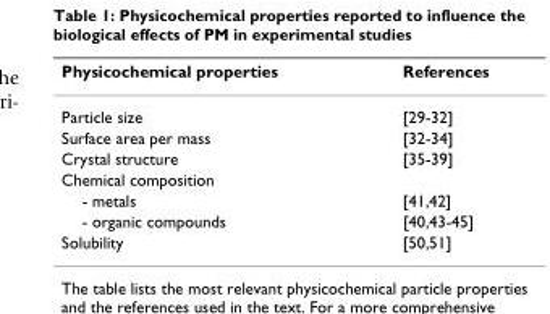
<table><thead><tr><td>Physicochemical properties</td><td>References</td></tr></thead><tbody><tr><td>Particle size</td><td>[29-32]</td></tr><tr><td>Surface area per mass</td><td>[32-34]</td></tr><tr><td>Crystal structure</td><td>[35-39]</td></tr><tr><td colspan="2">Chemical composition</td></tr><tr><td>- metals</td><td>[41,42]</td></tr><tr><td>- organic compounds</td><td>[40,43-45]</td></tr><tr><td>Solubility</td><td>[50,51]</td></tr></tbody></table>